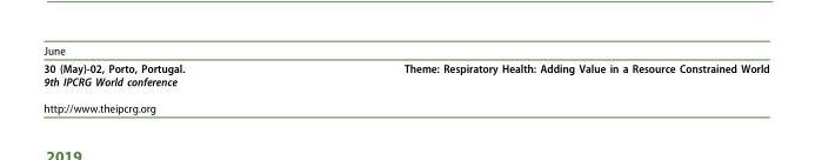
<table><thead><tr><td>June</td><td></td></tr></thead><tbody><tr><td>30 (May)-02, Porto, Portugal. 9th IPCRG World conference http://www.theipcrg.org</td><td>Theme: Respiratory Health: Adding Value in a Resource Constrained World</td></tr></tbody></table>